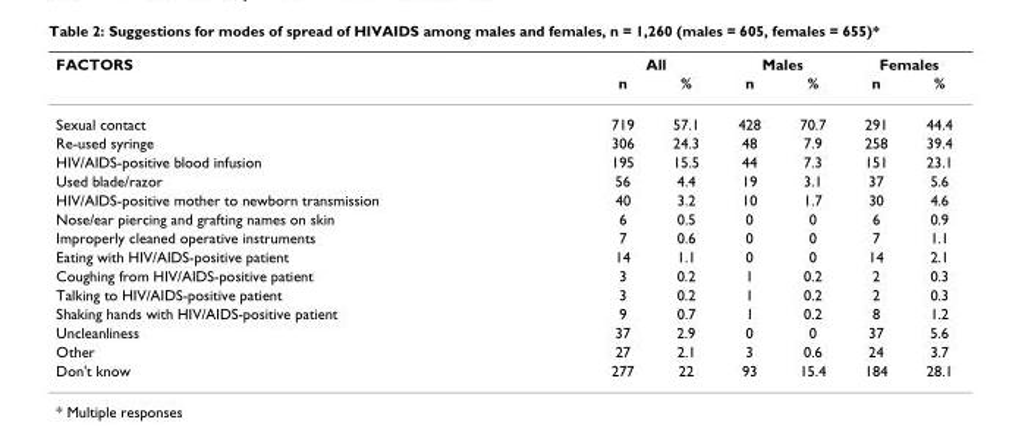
<table><thead><tr><td rowspan="2">FACTORS</td><td colspan="2">All</td><td colspan="2">Males</td><td colspan="2">Females</td></tr><tr><td>n</td><td>%</td><td>n</td><td>%</td><td>n</td><td>%</td></tr></thead><tbody><tr><td>Sexual contact</td><td>719</td><td>57.1</td><td>428</td><td>70.7</td><td>291</td><td>44.4</td></tr><tr><td>Re-used syringe</td><td>306</td><td>24.3</td><td>48</td><td>7.9</td><td>258</td><td>39.4</td></tr><tr><td>HIV/AIDS-positive blood infusion</td><td>195</td><td>15.5</td><td>44</td><td>7.3</td><td>151</td><td>23.1</td></tr><tr><td>Used blade/razor</td><td>56</td><td>4.4</td><td>19</td><td>3.1</td><td>37</td><td>5.6</td></tr><tr><td>HIV/AIDS-positive mother to newborn transmission</td><td>40</td><td>3.2</td><td>10</td><td>1.7</td><td>30</td><td>4.6</td></tr><tr><td>Nose/ear piercing and grafting names on skin</td><td>6</td><td>0.5</td><td>0</td><td>0</td><td>6</td><td>0.9</td></tr><tr><td>Improperly cleaned operative instruments</td><td>7</td><td>0.6</td><td>0</td><td>0</td><td>7</td><td>1.1</td></tr><tr><td>Eating with HIV/AIDS-positive patient</td><td>14</td><td>1.1</td><td>0</td><td>0</td><td>14</td><td>2.1</td></tr><tr><td>Coughing from HIV/AIDS-positive patient</td><td>3</td><td>0.2</td><td>1</td><td>0.2</td><td>2</td><td>0.3</td></tr><tr><td>Talking to HIV/AIDS-positive patient</td><td>3</td><td>0.2</td><td>1</td><td>0.2</td><td>2</td><td>0.3</td></tr><tr><td>Shaking hands with HIV/AIDS-positive patient</td><td>9</td><td>0.7</td><td>1</td><td>0.2</td><td>8</td><td>1.2</td></tr><tr><td>Uncleanliness</td><td>37</td><td>2.9</td><td>0</td><td>0</td><td>37</td><td>5.6</td></tr><tr><td>Other</td><td>27</td><td>2.1</td><td>3</td><td>0.6</td><td>24</td><td>3.7</td></tr><tr><td>Don&#x27;t know</td><td>277</td><td>22</td><td>93</td><td>15.4</td><td>184</td><td>28.1</td></tr></tbody></table>